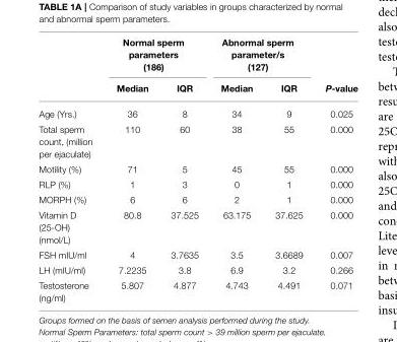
<table><thead><tr><td rowspan="2"></td><td colspan="2">Normal sperm parameters (186)</td><td colspan="2">Abnormal sperm parameter/s (127)</td><td rowspan="2">P-value</td></tr><tr><td>Median</td><td>IQR</td><td>Median</td><td>IQR</td></tr></thead><tbody><tr><td>Age (Yrs.)</td><td>36</td><td>8</td><td>34</td><td>9</td><td>0.025</td></tr><tr><td>Total sperm count, (million per ejaculate)</td><td>110</td><td>60</td><td>38</td><td>55</td><td>0.000</td></tr><tr><td>Motility (%)</td><td>71</td><td>5</td><td>45</td><td>55</td><td>0.000</td></tr><tr><td>RLP (%)</td><td>1</td><td>3</td><td>0</td><td>1</td><td>0.000</td></tr><tr><td>MORPH (%)</td><td>6</td><td>6</td><td>2</td><td>1</td><td>0.000</td></tr><tr><td>Vitamin D (25-OH) (nmol/L)</td><td>80.8</td><td>37.525</td><td>63.175</td><td>37.625</td><td>0.000</td></tr><tr><td>FSH mIU/ml</td><td>4</td><td>3.7635</td><td>3.5</td><td>3.6689</td><td>0.007</td></tr><tr><td>LH (mIU/ml)</td><td>7.2235</td><td>3.8</td><td>6.9</td><td>3.2</td><td>0.266</td></tr><tr><td>Testosterone (ng/ml)</td><td>5.807</td><td>4.877</td><td>4.743</td><td>4.491</td><td>0.071</td></tr></tbody></table>